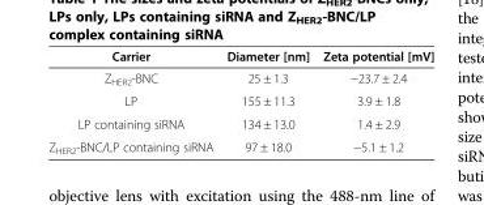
<table><thead><tr><td>Carrier</td><td>Diameter [nm]</td><td>Zeta potential [mV]</td></tr></thead><tbody><tr><td>Z<sub>HER2</sub>-BNC</td><td>25 ± 1.3</td><td>−23.7 ± 2.4</td></tr><tr><td>LP</td><td>155 ± 11.3</td><td>3.9 ± 1.8</td></tr><tr><td>LP containing siRNA</td><td>134 ± 13.0</td><td>1.4 ± 2.9</td></tr><tr><td>Z<sub>HER2</sub>-BNC/LP containing siRNA</td><td>97 ± 18.0</td><td>−5.1 ± 1.2</td></tr></tbody></table>